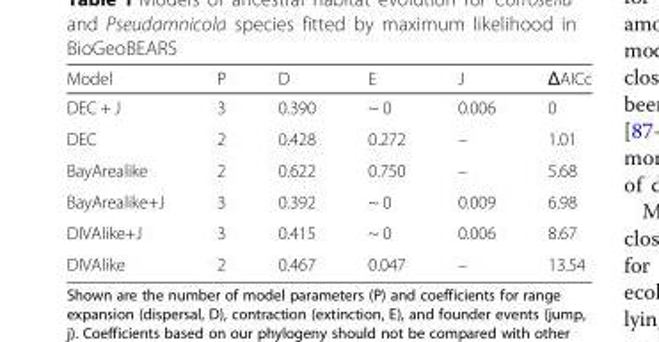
<table><thead><tr><td>Model</td><td>P</td><td>D</td><td>E</td><td>J</td><td>ΔAICc</td></tr></thead><tbody><tr><td>DEC + J</td><td>3</td><td>0.390</td><td>~ 0</td><td>0.006</td><td>0</td></tr><tr><td>DEC</td><td>2</td><td>0.428</td><td>0.272</td><td>–</td><td>1.01</td></tr><tr><td>BayArealike</td><td>2</td><td>0.622</td><td>0.750</td><td>–</td><td>5.68</td></tr><tr><td>BayArealike+J</td><td>3</td><td>0.392</td><td>~ 0</td><td>0.009</td><td>6.98</td></tr><tr><td>DIVAlike+J</td><td>3</td><td>0.415</td><td>~ 0</td><td>0.006</td><td>8.67</td></tr><tr><td>DIVAlike</td><td>2</td><td>0.467</td><td>0.047</td><td>–</td><td>13.54</td></tr></tbody></table>